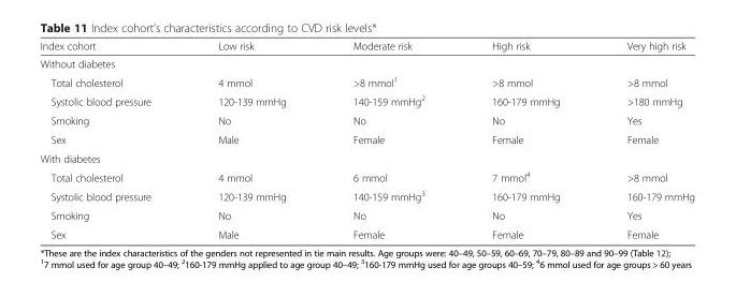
<table><thead><tr><td>Index cohort</td><td>Low risk</td><td>Moderate risk</td><td>High risk</td><td>Very high risk</td></tr></thead><tbody><tr><td colspan="5">Without diabetes</td></tr><tr><td>Total cholesterol</td><td>4 mmol</td><td>&gt;8 mmol<sup>1</sup></td><td>&gt;8 mmol</td><td>&gt;8 mmol</td></tr><tr><td>Systolic blood pressure</td><td>120-139 mmHg</td><td>140-159 mmHg<sup>2</sup></td><td>160-179 mmHg</td><td>&gt;180 mmHg</td></tr><tr><td>Smoking</td><td>No</td><td>No</td><td>No</td><td>Yes</td></tr><tr><td>Sex</td><td>Male</td><td>Female</td><td>Female</td><td>Female</td></tr><tr><td colspan="5">With diabetes</td></tr><tr><td>Total cholesterol</td><td>4 mmol</td><td>6 mmol</td><td>7 mmol<sup>4</sup></td><td>&gt;8 mmol</td></tr><tr><td>Systolic blood pressure</td><td>120-139 mmHg</td><td>140-159 mmHg<sup>3</sup></td><td>160-179 mmHg</td><td>160-179 mmHg</td></tr><tr><td>Smoking</td><td>No</td><td>No</td><td>No</td><td>Yes</td></tr><tr><td>Sex</td><td>Male</td><td>Female</td><td>Female</td><td>Female</td></tr></tbody></table>